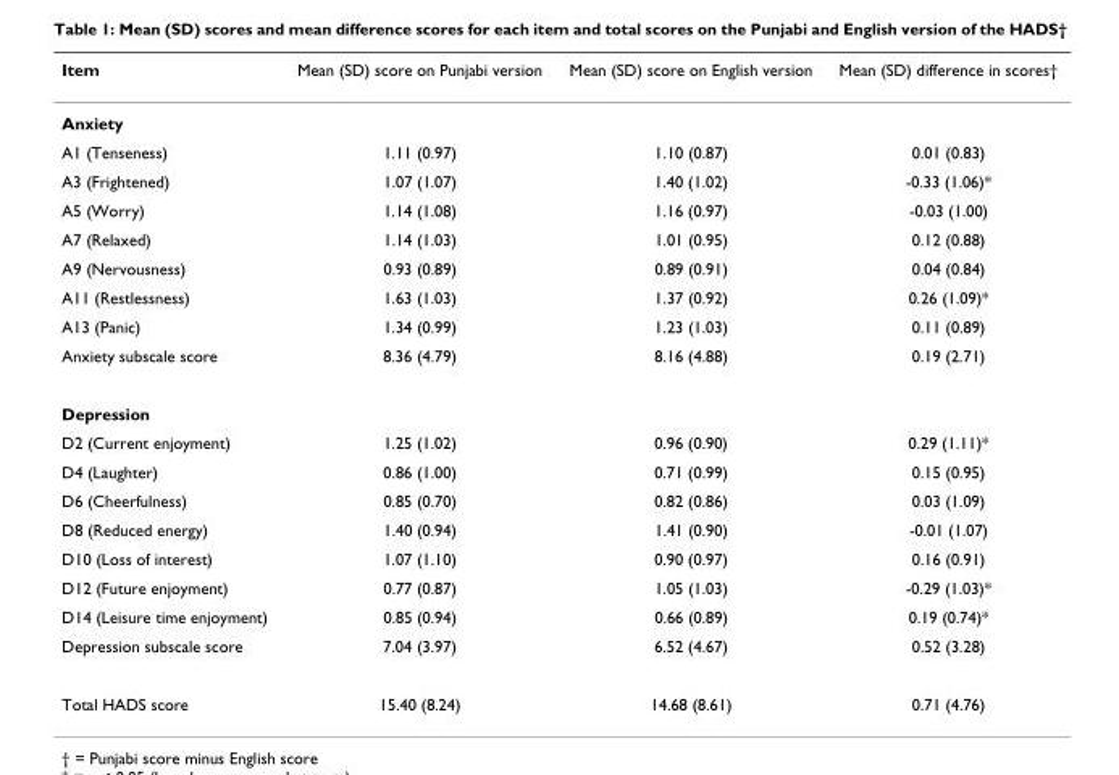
<table><thead><tr><td>Item</td><td>Mean (SD) score on Punjabi version</td><td>Mean (SD) score on English version</td><td>Mean (SD) difference in scores†</td></tr></thead><tbody><tr><td colspan="4">Anxiety</td></tr><tr><td>A1 (Tenseness)</td><td>1.11 (0.97)</td><td>1.10 (0.87)</td><td>0.01 (0.83)</td></tr><tr><td>A3 (Frightened)</td><td>1.07 (1.07)</td><td>1.40 (1.02)</td><td>-0.33 (1.06)*</td></tr><tr><td>A5 (Worry)</td><td>1.14 (1.08)</td><td>1.16 (0.97)</td><td>-0.03 (1.00)</td></tr><tr><td>A7 (Relaxed)</td><td>1.14 (1.03)</td><td>1.01 (0.95)</td><td>0.12 (0.88)</td></tr><tr><td>A9 (Nervousness)</td><td>0.93 (0.89)</td><td>0.89 (0.91)</td><td>0.04 (0.84)</td></tr><tr><td>A11 (Restlessness)</td><td>1.63 (1.03)</td><td>1.37 (0.92)</td><td>0.26 (1.09)*</td></tr><tr><td>A13 (Panic)</td><td>1.34 (0.99)</td><td>1.23 (1.03)</td><td>0.11 (0.89)</td></tr><tr><td>Anxiety subscale score</td><td>8.36 (4.79)</td><td>8.16 (4.88)</td><td>0.19 (2.71)</td></tr><tr><td colspan="4">Depression</td></tr><tr><td>D2 (Current enjoyment)</td><td>1.25 (1.02)</td><td>0.96 (0.90)</td><td>0.29 (1.11)*</td></tr><tr><td>D4 (Laughter)</td><td>0.86 (1.00)</td><td>0.71 (0.99)</td><td>0.15 (0.95)</td></tr><tr><td>D6 (Cheerfulness)</td><td>0.85 (0.70)</td><td>0.82 (0.86)</td><td>0.03 (1.09)</td></tr><tr><td>D8 (Reduced energy)</td><td>1.40 (0.94)</td><td>1.41 (0.90)</td><td>-0.01 (1.07)</td></tr><tr><td>D10 (Loss of interest)</td><td>1.07 (1.10)</td><td>0.90 (0.97)</td><td>0.16 (0.91)</td></tr><tr><td>D12 (Future enjoyment)</td><td>0.77 (0.87)</td><td>1.05 (1.03)</td><td>-0.29 (1.03)*</td></tr><tr><td>D14 (Leisure time enjoyment)</td><td>0.85 (0.94)</td><td>0.66 (0.89)</td><td>0.19 (0.74)*</td></tr><tr><td>Depression subscale score</td><td>7.04 (3.97)</td><td>6.52 (4.67)</td><td>0.52 (3.28)</td></tr><tr><td>Total HADS score</td><td>15.40 (8.24)</td><td>14.68 (8.61)</td><td>0.71 (4.76)</td></tr></tbody></table>